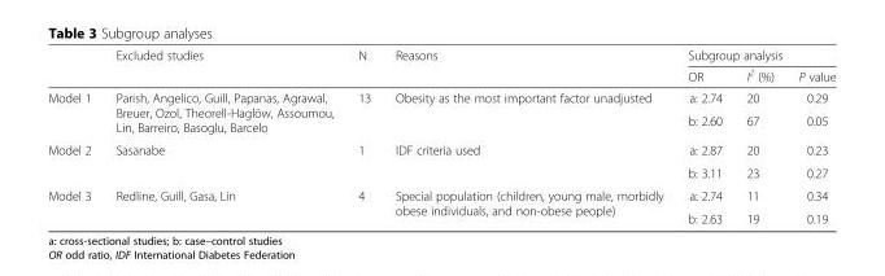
<table><thead><tr><td rowspan="2"></td><td rowspan="2">Excluded studies</td><td rowspan="2">N</td><td rowspan="2">Reasons</td><td colspan="3">Subgroup analysis</td></tr><tr><td>OR</td><td>I<sup>2</sup> (%)</td><td>P value</td></tr></thead><tbody><tr><td rowspan="2">Model 1</td><td rowspan="2">Parish, Angelico, Guill, Papanas, Agrawal, Breuer, Ozol, Theorell-Haglöw, Assoumou, Lin, Barreiro, Basoglu, Barcelo</td><td rowspan="2">13</td><td rowspan="2">Obesity as the most important factor unadjusted</td><td>a: 2.74</td><td>20</td><td>0.29</td></tr><tr><td>b: 2.60</td><td>67</td><td>0.05</td></tr><tr><td rowspan="2">Model 2</td><td rowspan="2">Sasanabe</td><td rowspan="2">1</td><td rowspan="2">IDF criteria used</td><td>a: 2.87</td><td>20</td><td>0.23</td></tr><tr><td>b: 3.11</td><td>23</td><td>0.27</td></tr><tr><td rowspan="2">Model 3</td><td rowspan="2">Redline, Guill, Gasa, Lin</td><td rowspan="2">4</td><td rowspan="2">Special population (children, young male, morbidly obese individuals, and non-obese people)</td><td>a: 2.74</td><td>11</td><td>0.34</td></tr><tr><td>b: 2.63</td><td>19</td><td>0.19</td></tr></tbody></table>